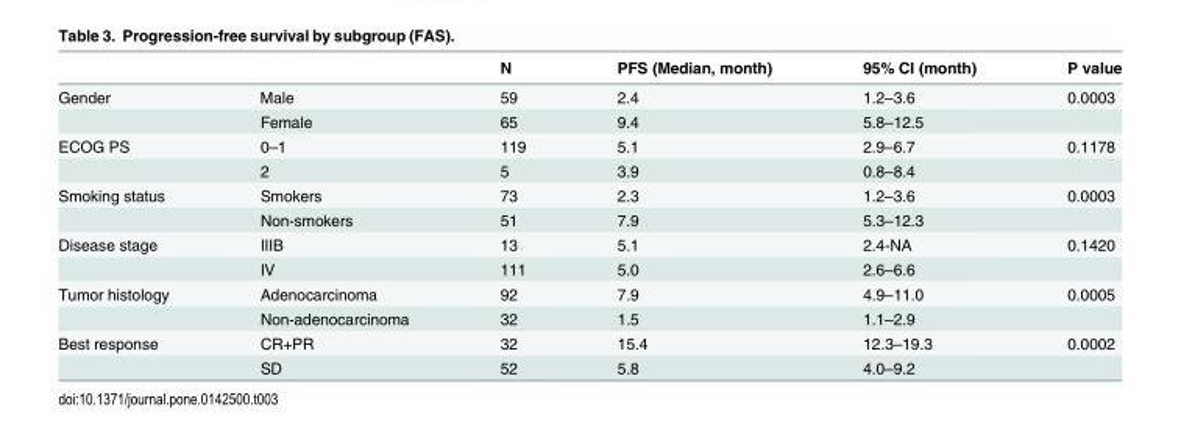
<table><thead><tr><td></td><td></td><td>N</td><td>PFS (Median, month)</td><td>95% CI (month)</td><td>P value</td></tr></thead><tbody><tr><td rowspan="2">Gender</td><td>Male</td><td>59</td><td>2.4</td><td>1.2–3.6</td><td>0.0003</td></tr><tr><td>Female</td><td>65</td><td>9.4</td><td>5.8–12.5</td><td></td></tr><tr><td rowspan="2">ECOG PS</td><td>0–1</td><td>119</td><td>5.1</td><td>2.9–6.7</td><td>0.1178</td></tr><tr><td>2</td><td>5</td><td>3.9</td><td>0.8–8.4</td><td></td></tr><tr><td rowspan="2">Smoking status</td><td>Smokers</td><td>73</td><td>2.3</td><td>1.2–3.6</td><td>0.0003</td></tr><tr><td>Non-smokers</td><td>51</td><td>7.9</td><td>5.3–12.3</td><td></td></tr><tr><td rowspan="2">Disease stage</td><td>IIIB</td><td>13</td><td>5.1</td><td>2.4-NA</td><td>0.1420</td></tr><tr><td>IV</td><td>111</td><td>5.0</td><td>2.6–6.6</td><td></td></tr><tr><td rowspan="2">Tumor histology</td><td>Adenocarcinoma</td><td>92</td><td>7.9</td><td>4.9–11.0</td><td>0.0005</td></tr><tr><td>Non-adenocarcinoma</td><td>32</td><td>1.5</td><td>1.1–2.9</td><td></td></tr><tr><td rowspan="2">Best response</td><td>CR+PR</td><td>32</td><td>15.4</td><td>12.3–19.3</td><td>0.0002</td></tr><tr><td>SD</td><td>52</td><td>5.8</td><td>4.0–9.2</td><td></td></tr></tbody></table>